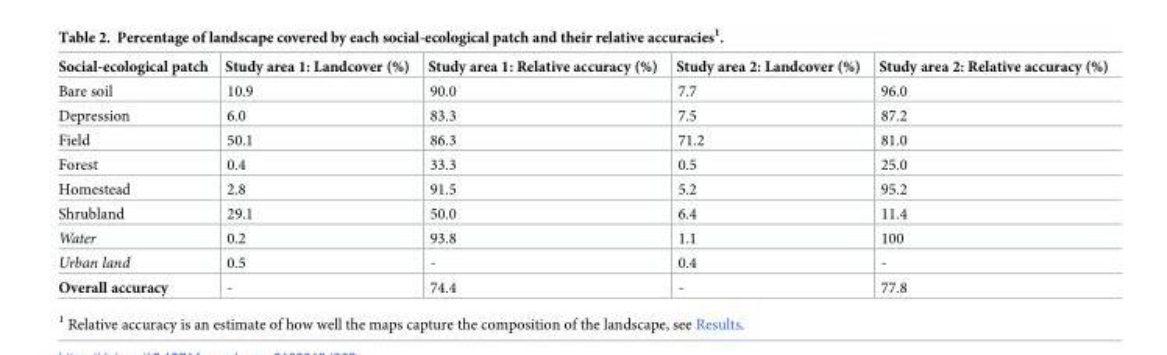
<table><thead><tr><td>Social-ecological patch</td><td>Study area 1: Landcover (%)</td><td>Study area 1: Relative accuracy (%)</td><td>Study area 2: Landcover (%)</td><td>Study area 2: Relative accuracy (%)</td></tr></thead><tbody><tr><td>Bare soil</td><td>10.9</td><td>90.0</td><td>7.7</td><td>96.0</td></tr><tr><td>Depression</td><td>6.0</td><td>83.3</td><td>7.5</td><td>87.2</td></tr><tr><td>Field</td><td>50.1</td><td>86.3</td><td>71.2</td><td>81.0</td></tr><tr><td>Forest</td><td>0.4</td><td>33.3</td><td>0.5</td><td>25.0</td></tr><tr><td>Homestead</td><td>2.8</td><td>91.5</td><td>5.2</td><td>95.2</td></tr><tr><td>Shrubland</td><td>29.1</td><td>50.0</td><td>6.4</td><td>11.4</td></tr><tr><td>Water</td><td>0.2</td><td>93.8</td><td>1.1</td><td>100</td></tr><tr><td>Urban land</td><td>0.5</td><td>-</td><td>0.4</td><td>-</td></tr><tr><td>Overall accuracy</td><td>-</td><td>74.4</td><td>-</td><td>77.8</td></tr></tbody></table>